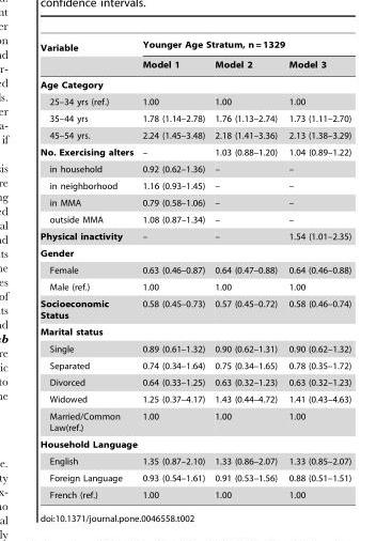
<table><thead><tr><td rowspan="2">Variable</td><td colspan="3">Younger Age Stratum, n = 1329</td></tr><tr><td>Model 1</td><td>Model 2</td><td>Model 3</td></tr></thead><tbody><tr><td colspan="4">Age Category</td></tr><tr><td>25–34 yrs (ref.)</td><td>1.00</td><td>1.00</td><td>1.00</td></tr><tr><td>35–44 yrs</td><td>1.78 (1.14–2.78)</td><td>1.76 (1.13–2.74)</td><td>1.73 (1.11–2.70)</td></tr><tr><td>45–54 yrs.</td><td>2.24 (1.45–3.48)</td><td>2.18 (1.41–3.36)</td><td>2.13 (1.38–3.29)</td></tr><tr><td>No. Exercising alters</td><td>–</td><td>1.03 (0.88–1.20)</td><td>1.04 (0.89–1.22)</td></tr><tr><td>in household</td><td>0.92 (0.62–1.36)</td><td>–</td><td>–</td></tr><tr><td>in neighborhood</td><td>1.16 (0.93–1.45)</td><td>–</td><td>–</td></tr><tr><td>in MMA</td><td>0.79 (0.58–1.06)</td><td>–</td><td>–</td></tr><tr><td>outside MMA</td><td>1.08 (0.87–1.34)</td><td>–</td><td>–</td></tr><tr><td>Physical inactivity</td><td>–</td><td>–</td><td>1.54 (1.01–2.35)</td></tr><tr><td colspan="4">Gender</td></tr><tr><td>Female</td><td>0.63 (0.46–0.87)</td><td>0.64 (0.47–0.88)</td><td>0.64 (0.46–0.88)</td></tr><tr><td>Male (ref.)</td><td>1.00</td><td>1.00</td><td>1.00</td></tr><tr><td>Socioeconomic Status</td><td>0.58 (0.45–0.73)</td><td>0.57 (0.45–0.72)</td><td>0.58 (0.46–0.74)</td></tr><tr><td colspan="4">Marital status</td></tr><tr><td>Single</td><td>0.89 (0.61–1.32)</td><td>0.90 (0.62–1.31)</td><td>0.90 (0.62–1.32)</td></tr><tr><td>Separated</td><td>0.74 (0.34–1.64)</td><td>0.75 (0.34–1.65)</td><td>0.78 (0.35–1.72)</td></tr><tr><td>Divorced</td><td>0.64 (0.33–1.25)</td><td>0.63 (0.32–1.23)</td><td>0.63 (0.32–1.23)</td></tr><tr><td>Widowed</td><td>1.25 (0.37–4.17)</td><td>1.43 (0.44–4.72)</td><td>1.41 (0.43–4.63)</td></tr><tr><td>Married/Common Law(ref.)</td><td>1.00</td><td>1.00</td><td>1.00</td></tr><tr><td colspan="4">Household Language</td></tr><tr><td>English</td><td>1.35 (0.87–2.10)</td><td>1.33 (0.86–2.07)</td><td>1.33 (0.85–2.07)</td></tr><tr><td>Foreign Language</td><td>0.93 (0.54–1.61)</td><td>0.91 (0.53–1.56)</td><td>0.88 (0.51–1.51)</td></tr><tr><td>French (ref.)</td><td>1.00</td><td>1.00</td><td>1.00</td></tr></tbody></table>